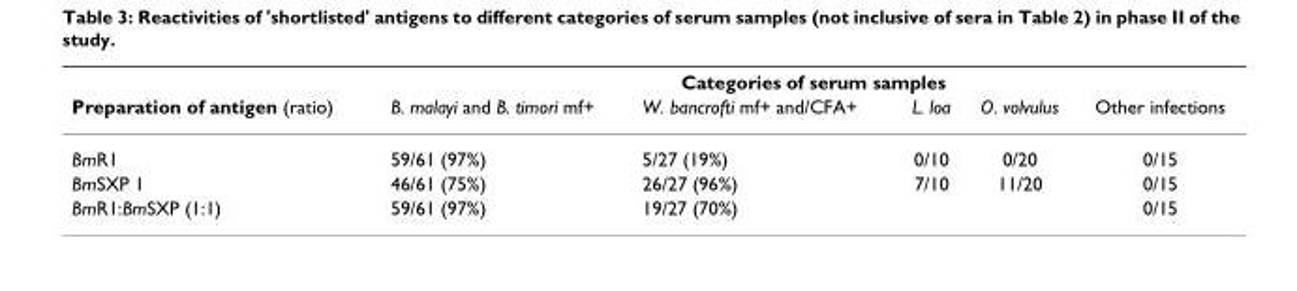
<table><thead><tr><td rowspan="2">Preparation of antigen (ratio)</td><td colspan="5">Categories of serum samples</td></tr><tr><td>B. malayi and B. timori mf+</td><td>W. bancrofti mf+ and/CFA+</td><td>L. loa</td><td>O. volvulus</td><td>Other infections</td></tr></thead><tbody><tr><td>BmR1</td><td>59/61 (97%)</td><td>5/27 (19%)</td><td>0/10</td><td>0/20</td><td>0/15</td></tr><tr><td>BmSXP 1</td><td>46/61 (75%)</td><td>26/27 (96%)</td><td>7/10</td><td>11/20</td><td>0/15</td></tr><tr><td>BmR1:BmSXP (1:1)</td><td>59/61 (97%)</td><td>19/27 (70%)</td><td></td><td></td><td>0/15</td></tr></tbody></table>